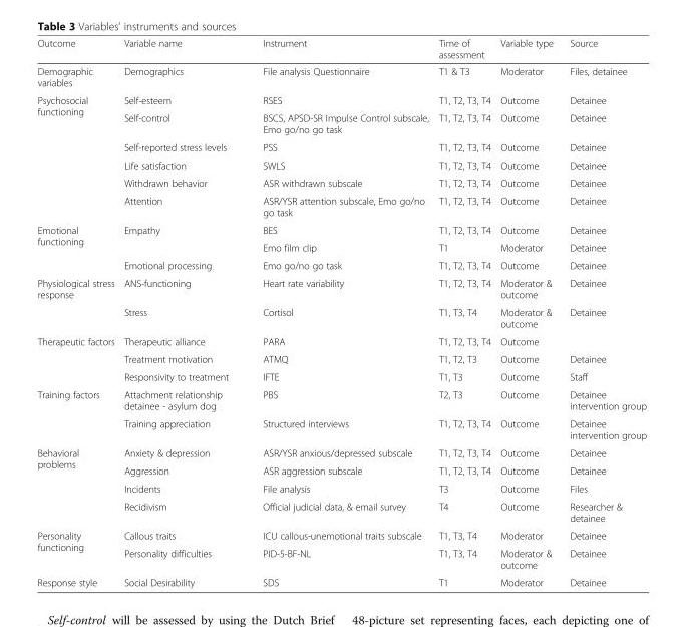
<table><thead><tr><td>Outcome</td><td>Variable name</td><td>Instrument</td><td>Time of assessment</td><td>Variable type</td><td>Source</td></tr></thead><tbody><tr><td>Demographic variables</td><td>Demographics</td><td>File analysis Questionnaire</td><td>T1 &amp; T3</td><td>Moderator</td><td>Files, detainee</td></tr><tr><td rowspan="6">Psychosocial functioning</td><td>Self-esteem</td><td>RSES</td><td>T1, T2, T3, T4</td><td>Outcome</td><td>Detainee</td></tr><tr><td>Self-control</td><td>BSCS, APSD-SR Impulse Control subscale, Emo go/no go task</td><td>T1, T2, T3, T4</td><td>Outcome</td><td>Detainee</td></tr><tr><td>Self-reported stress levels</td><td>PSS</td><td>T1, T2, T3, T4</td><td>Outcome</td><td>Detainee</td></tr><tr><td>Life satisfaction</td><td>SWLS</td><td>T1, T2, T3, T4</td><td>Outcome</td><td>Detainee</td></tr><tr><td>Withdrawn behavior</td><td>ASR withdrawn subscale</td><td>T1, T2, T3, T4</td><td>Outcome</td><td>Detainee</td></tr><tr><td>Attention</td><td>ASR/YSR attention subscale, Emo go/no go task</td><td>T1, T2, T3, T4</td><td>Outcome</td><td>Detainee</td></tr><tr><td rowspan="3">Emotional functioning</td><td rowspan="2">Empathy</td><td>BES</td><td>T1, T2, T3, T4</td><td>Outcome</td><td>Detainee</td></tr><tr><td>Emo film clip</td><td>T1</td><td>Moderator</td><td>Detainee</td></tr><tr><td>Emotional processing</td><td>Emo go/no go task</td><td>T1, T2, T3, T4</td><td>Outcome</td><td>Detainee</td></tr><tr><td rowspan="2">Physiological stress response</td><td>ANS-functioning</td><td>Heart rate variability</td><td>T1, T2, T3, T4</td><td>Moderator &amp; outcome</td><td>Detainee</td></tr><tr><td>Stress</td><td>Cortisol</td><td>T1, T3, T4</td><td>Moderator &amp; outcome</td><td>Detainee</td></tr><tr><td rowspan="3">Therapeutic factors</td><td>Therapeutic alliance</td><td>PARA</td><td>T1, T2, T3, T4</td><td>Outcome</td><td></td></tr><tr><td>Treatment motivation</td><td>ATMQ</td><td>T1, T2, T3</td><td>Outcome</td><td>Detainee</td></tr><tr><td>Responsivity to treatment</td><td>IFTE</td><td>T1, T3</td><td>Outcome</td><td>Staff</td></tr><tr><td rowspan="2">Training factors</td><td>Attachment relationship detainee - asylum dog</td><td>PBS</td><td>T2, T3</td><td>Outcome</td><td>Detainee intervention group</td></tr><tr><td>Training appreciation</td><td>Structured interviews</td><td>T1, T2, T3, T4</td><td>Outcome</td><td>Detainee intervention group</td></tr><tr><td rowspan="4">Behavioral problems</td><td>Anxiety &amp; depression</td><td>ASR/YSR anxious/depressed subscale</td><td>T1, T2, T3, T4</td><td>Outcome</td><td>Detainee</td></tr><tr><td>Aggression</td><td>ASR aggression subscale</td><td>T1, T2, T3, T4</td><td>Outcome</td><td>Detainee</td></tr><tr><td>Incidents</td><td>File analysis</td><td>T3</td><td>Outcome</td><td>Files</td></tr><tr><td>Recidivism</td><td>Official judicial data, &amp; email survey</td><td>T4</td><td>Outcome</td><td>Researcher &amp; detainee</td></tr><tr><td rowspan="2">Personality functioning</td><td>Callous traits</td><td>ICU callous-unemotional traits subscale</td><td>T1, T3, T4</td><td>Moderator</td><td>Detainee</td></tr><tr><td>Personality difficulties</td><td>PID-5-BF-NL</td><td>T1, T3, T4</td><td>Moderator &amp; outcome</td><td>Detainee</td></tr><tr><td>Response style</td><td>Social Desirability</td><td>SDS</td><td>T1</td><td>Moderator</td><td>Detainee</td></tr></tbody></table>